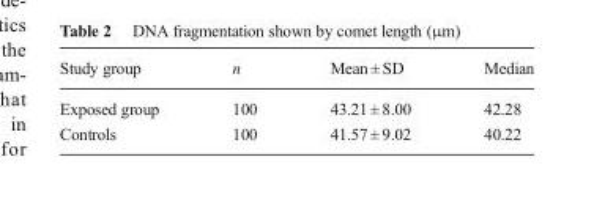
<table><thead><tr><td>Study group</td><td>n</td><td>Mean ± SD</td><td>Median</td></tr></thead><tbody><tr><td>Exposed group</td><td>100</td><td>43.21 ± 8.00</td><td>42.28</td></tr><tr><td>Controls</td><td>100</td><td>41.57 ± 9.02</td><td>40.22</td></tr></tbody></table>